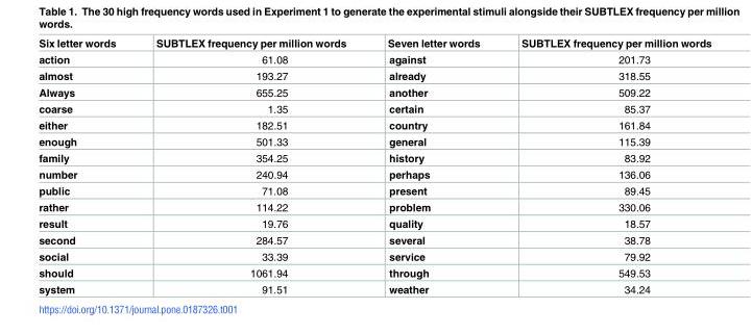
<table><thead><tr><td>Six letter words</td><td>SUBTLEX frequency per million words</td><td>Seven letter words</td><td>SUBTLEX frequency per million words</td></tr></thead><tbody><tr><td>action</td><td>61.08</td><td>against</td><td>201.73</td></tr><tr><td>almost</td><td>193.27</td><td>already</td><td>318.55</td></tr><tr><td>Always</td><td>655.25</td><td>another</td><td>509.22</td></tr><tr><td>coarse</td><td>1.35</td><td>certain</td><td>85.37</td></tr><tr><td>either</td><td>182.51</td><td>country</td><td>161.84</td></tr><tr><td>enough</td><td>501.33</td><td>general</td><td>115.39</td></tr><tr><td>family</td><td>354.25</td><td>history</td><td>83.92</td></tr><tr><td>number</td><td>240.94</td><td>perhaps</td><td>136.06</td></tr><tr><td>public</td><td>71.08</td><td>present</td><td>89.45</td></tr><tr><td>rather</td><td>114.22</td><td>problem</td><td>330.06</td></tr><tr><td>result</td><td>19.76</td><td>quality</td><td>18.57</td></tr><tr><td>second</td><td>284.57</td><td>several</td><td>38.78</td></tr><tr><td>social</td><td>33.39</td><td>service</td><td>79.92</td></tr><tr><td>should</td><td>1061.94</td><td>through</td><td>549.53</td></tr><tr><td>system</td><td>91.51</td><td>weather</td><td>34.24</td></tr></tbody></table>